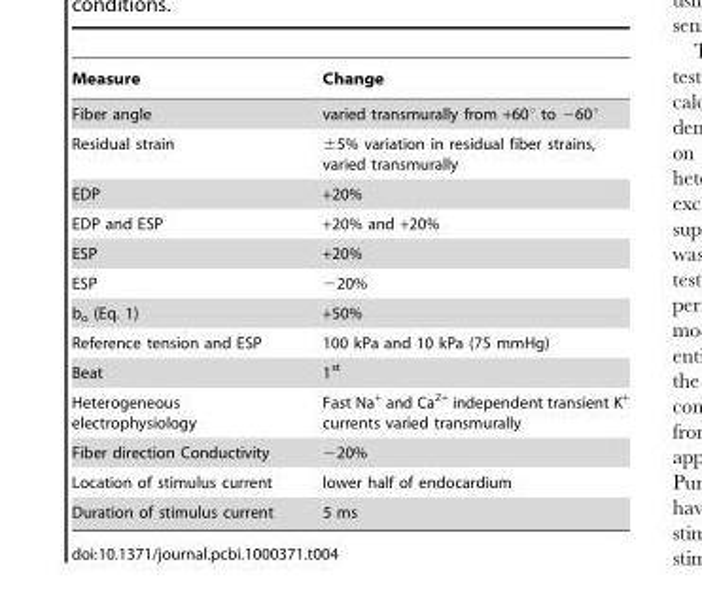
<table><thead><tr><td>Measure</td><td>Change</td></tr></thead><tbody><tr><td>Fiber angle</td><td>varied transmurally from +60° to −60°</td></tr><tr><td>Residual strain</td><td>±5% variation in residual fiber strains, varied transmurally</td></tr><tr><td>EDP</td><td>+20%</td></tr><tr><td>EDP and ESP</td><td>+20% and +20%</td></tr><tr><td>ESP</td><td>+20%</td></tr><tr><td>ESP</td><td>−20%</td></tr><tr><td>b<sub>o</sub> (Eq. 1)</td><td>+50%</td></tr><tr><td>Reference tension and ESP</td><td>100 kPa and 10 kPa (75 mmHg)</td></tr><tr><td>Beat</td><td>1<sup>st</sup></td></tr><tr><td>Heterogeneous electrophysiology</td><td>Fast Na<sup>+</sup> and Ca<sup>2+</sup> independent transient K<sup>+</sup> currents varied transmurally</td></tr><tr><td>Fiber direction Conductivity</td><td>−20%</td></tr><tr><td>Location of stimulus current</td><td>lower half of endocardium</td></tr><tr><td>Duration of stimulus current</td><td>5 ms</td></tr></tbody></table>